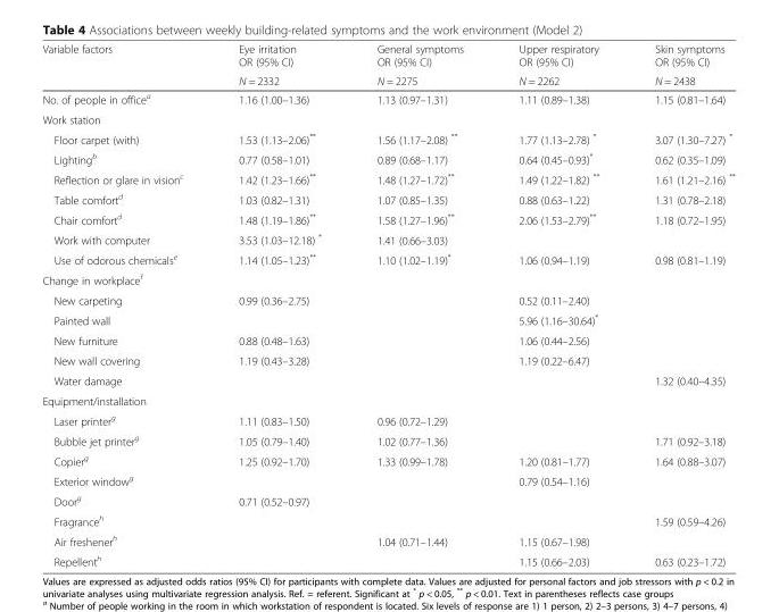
<table><thead><tr><td rowspan="2">Variable factors</td><td rowspan="2">Eye irritation OR (95% CI) N = 2332</td><td rowspan="2">General symptoms OR (95% CI) N = 2275</td><td rowspan="2">Upper respiratory OR (95% CI) N = 2262</td><td rowspan="2">Skin symptoms OR (95% CI) N = 2438</td></tr><tr></tr></thead><tbody><tr><td>No. of people in office<sup>a</sup></td><td>1.16 (1.00–1.36)</td><td>1.13 (0.97–1.31)</td><td>1.11 (0.89–1.38)</td><td>1.15 (0.81–1.64)</td></tr><tr><td colspan="5">Work station</td></tr><tr><td>Floor carpet (with)</td><td>1.53 (1.13–2.06)**</td><td>1.56 (1.17–2.08) **</td><td>1.77 (1.13–2.78) *</td><td>3.07 (1.30–7.27) *</td></tr><tr><td>Lighting<sup>b</sup></td><td>0.77 (0.58–1.01)</td><td>0.89 (0.68–1.17)</td><td>0.64 (0.45–0.93)*</td><td>0.62 (0.35–1.09)</td></tr><tr><td>Reflection or glare in vision<sup>c</sup></td><td>1.42 (1.23–1.66)**</td><td>1.48 (1.27–1.72)**</td><td>1.49 (1.22–1.82) **</td><td>1.61 (1.21–2.16) **</td></tr><tr><td>Table comfort<sup>d</sup></td><td>1.03 (0.82–1.31)</td><td>1.07 (0.85–1.35)</td><td>0.88 (0.63–1.22)</td><td>1.31 (0.78–2.18)</td></tr><tr><td>Chair comfort<sup>d</sup></td><td>1.48 (1.19–1.86)**</td><td>1.58 (1.27–1.96)**</td><td>2.06 (1.53–2.79)**</td><td>1.18 (0.72–1.95)</td></tr><tr><td>Work with computer</td><td>3.53 (1.03–12.18) *</td><td>1.41 (0.66–3.03)</td><td></td><td></td></tr><tr><td>Use of odorous chemicals<sup>e</sup></td><td>1.14 (1.05–1.23)**</td><td>1.10 (1.02–1.19)*</td><td>1.06 (0.94–1.19)</td><td>0.98 (0.81–1.19)</td></tr><tr><td colspan="5">Change in workplace<sup>f</sup></td></tr><tr><td>New carpeting</td><td>0.99 (0.36–2.75)</td><td></td><td>0.52 (0.11–2.40)</td><td></td></tr><tr><td>Painted wall</td><td></td><td></td><td>5.96 (1.16–30.64)*</td><td></td></tr><tr><td>New furniture</td><td>0.88 (0.48–1.63)</td><td></td><td>1.06 (0.44–2.56)</td><td></td></tr><tr><td>New wall covering</td><td>1.19 (0.43–3.28)</td><td></td><td>1.19 (0.22–6.47)</td><td></td></tr><tr><td>Water damage</td><td></td><td></td><td></td><td>1.32 (0.40–4.35)</td></tr><tr><td colspan="5">Equipment/installation</td></tr><tr><td>Laser printer<sup>g</sup></td><td>1.11 (0.83–1.50)</td><td>0.96 (0.72–1.29)</td><td></td><td></td></tr><tr><td>Bubble jet printer<sup>g</sup></td><td>1.05 (0.79–1.40)</td><td>1.02 (0.77–1.36)</td><td></td><td>1.71 (0.92–3.18)</td></tr><tr><td>Copier<sup>g</sup></td><td>1.25 (0.92–1.70)</td><td>1.33 (0.99–1.78)</td><td>1.20 (0.81–1.77)</td><td>1.64 (0.88–3.07)</td></tr><tr><td>Exterior window<sup>g</sup></td><td></td><td></td><td>0.79 (0.54–1.16)</td><td></td></tr><tr><td>Door<sup>g</sup></td><td>0.71 (0.52–0.97)</td><td></td><td></td><td></td></tr><tr><td>Fragrance<sup>h</sup></td><td></td><td></td><td></td><td>1.59 (0.59–4.26)</td></tr><tr><td>Air freshener<sup>h</sup></td><td></td><td>1.04 (0.71–1.44)</td><td>1.15 (0.67–1.98)</td><td></td></tr><tr><td>Repellent<sup>h</sup></td><td></td><td></td><td>1.15 (0.66–2.03)</td><td>0.63 (0.23–1.72)</td></tr></tbody></table>